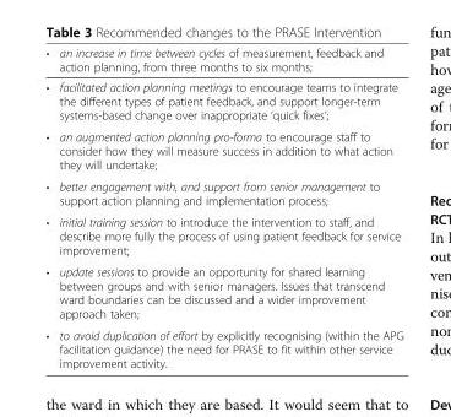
<table><thead><tr><td>•</td><td>an increase in time between cycles of measurement, feedback and action planning, from three months to six months;</td></tr></thead><tbody><tr><td>•</td><td>facilitated action planning meetings to encourage teams to integrate the different types of patient feedback, and support longer-term systems-based change over inappropriate ‘quick fixes’;</td></tr><tr><td>•</td><td>an augmented action planning pro-forma to encourage staff to consider how they will measure success in addition to what action they will undertake;</td></tr><tr><td>•</td><td>better engagement with, and support from senior management to support action planning and implementation process;</td></tr><tr><td>•</td><td>initial training session to introduce the intervention to staff, and describe more fully the process of using patient feedback for service improvement;</td></tr><tr><td>•</td><td>update sessions to provide an opportunity for shared learning between groups and with senior managers. Issues that transcend ward boundaries can be discussed and a wider improvement approach taken;</td></tr><tr><td>•</td><td>to avoid duplication of effort by explicitly recognising (within the APG facilitation guidance) the need for PRASE to fit within other service improvement activity.</td></tr></tbody></table>